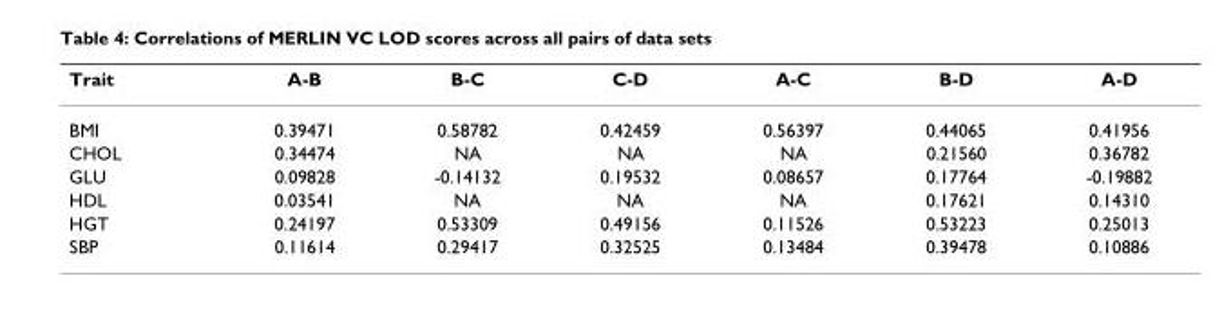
<table><thead><tr><td>Trait</td><td>A-B</td><td>B-C</td><td>C-D</td><td>A-C</td><td>B-D</td><td>A-D</td></tr></thead><tbody><tr><td>BMI</td><td>0.39471</td><td>0.58782</td><td>0.42459</td><td>0.56397</td><td>0.44065</td><td>0.41956</td></tr><tr><td>CHOL</td><td>0.34474</td><td>NA</td><td>NA</td><td>NA</td><td>0.21560</td><td>0.36782</td></tr><tr><td>GLU</td><td>0.09828</td><td>-0.14132</td><td>0.19532</td><td>0.08657</td><td>0.17764</td><td>-0.19882</td></tr><tr><td>HDL</td><td>0.03541</td><td>NA</td><td>NA</td><td>NA</td><td>0.17621</td><td>0.14310</td></tr><tr><td>HGT</td><td>0.24197</td><td>0.53309</td><td>0.49156</td><td>0.11526</td><td>0.53223</td><td>0.25013</td></tr><tr><td>SBP</td><td>0.11614</td><td>0.29417</td><td>0.32525</td><td>0.13484</td><td>0.39478</td><td>0.10886</td></tr></tbody></table>